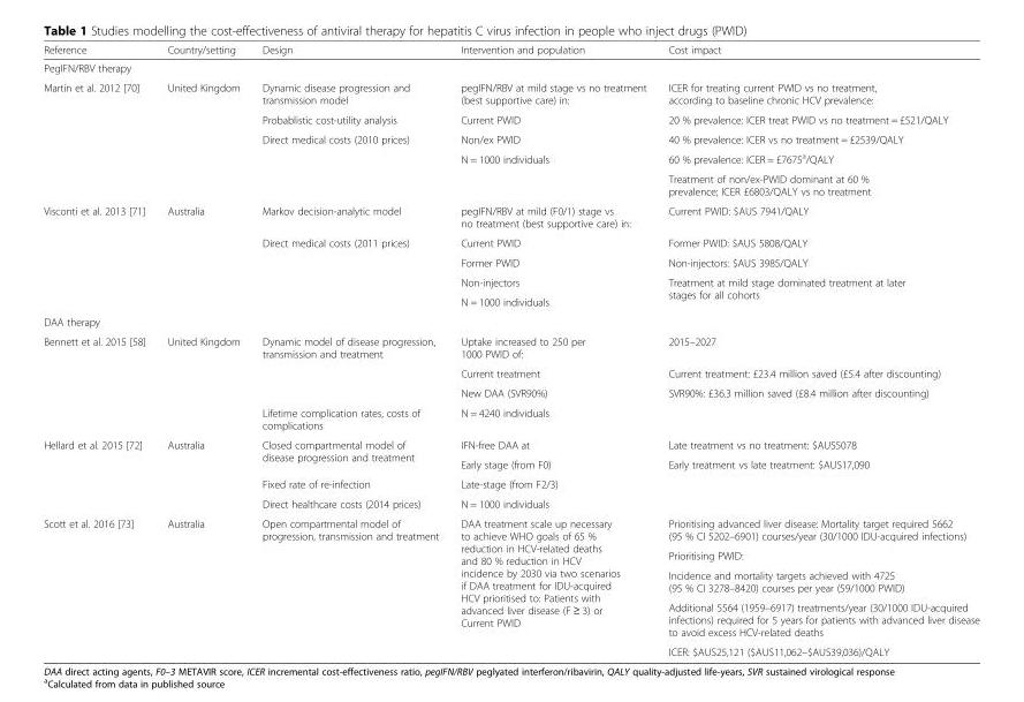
<table><thead><tr><td>Reference</td><td>Country/setting</td><td>Design</td><td>Intervention and population</td><td>Cost impact</td></tr></thead><tbody><tr><td colspan="5">PegIFN/RBV therapy</td></tr><tr><td rowspan="5">Martin et al. 2012 [70]</td><td rowspan="5">United Kingdom</td><td>Dynamic disease progression and transmission model</td><td>pegIFN/RBV at mild stage vs no treatment (best supportive care) in:</td><td>ICER for treating current PWID vs no treatment, according to baseline chronic HCV prevalence:</td></tr><tr><td>Probablistic cost-utility analysis</td><td>Current PWID</td><td>20 % prevalence: ICER treat PWID vs no treatment = £521/QALY</td></tr><tr><td rowspan="3">Direct medical costs (2010 prices)</td><td>Non/ex PWID</td><td>40 % prevalence: ICER vs no treatment = £2539/QALY</td></tr><tr><td rowspan="2">N = 1000 individuals</td><td>60 % prevalence: ICER = £7675<sup>a</sup>/QALY</td></tr><tr><td>Treatment of non/ex-PWID dominant at 60 % prevalence; ICER £6803/QALY vs no treatment</td></tr><tr><td rowspan="5">Visconti et al. 2013 [71]</td><td rowspan="5">Australia</td><td>Markov decision-analytic model</td><td>pegIFN/RBV at mild (F0/1) stage vs no treatment (best supportive care) in:</td><td>Current PWID: $AUS 7941/QALY</td></tr><tr><td rowspan="4">Direct medical costs (2011 prices)</td><td>Current PWID</td><td>Former PWID: $AUS 5808/QALY</td></tr><tr><td>Former PWID</td><td>Non-injectors: $AUS 3985/QALY</td></tr><tr><td>Non-injectors</td><td rowspan="2">Treatment at mild stage dominated treatment at later stages for all cohorts</td></tr><tr><td>N = 1000 individuals</td></tr><tr><td colspan="5">DAA therapy</td></tr><tr><td rowspan="4">Bennett et al. 2015 [58]</td><td rowspan="4">United Kingdom</td><td rowspan="3">Dynamic model of disease progression, transmission and treatment</td><td>Uptake increased to 250 per 1000 PWID of:</td><td>2015–2027</td></tr><tr><td>Current treatment</td><td>Current treatment: £23.4 million saved (£5.4 after discounting)</td></tr><tr><td>New DAA (SVR90%)</td><td rowspan="2">SVR90%: £36.3 million saved (£8.4 million after discounting)</td></tr><tr><td>Lifetime complication rates, costs of complications</td><td>N = 4240 individuals</td></tr><tr><td rowspan="4">Hellard et al. 2015 [72]</td><td rowspan="4">Australia</td><td rowspan="2">Closed compartmental model of disease progression and treatment</td><td>IFN-free DAA at</td><td>Late treatment vs no treatment: $AUS5078</td></tr><tr><td>Early stage (from F0)</td><td rowspan="3">Early treatment vs late treatment: $AUS17,090</td></tr><tr><td>Fixed rate of re-infection</td><td>Late-stage (from F2/3)</td></tr><tr><td>Direct healthcare costs (2014 prices)</td><td>N = 1000 individuals</td></tr><tr><td rowspan="5">Scott et al. 2016 [73]</td><td rowspan="5">Australia</td><td rowspan="5">Open compartmental model of progression, transmission and treatment</td><td rowspan="5">DAA treatment scale up necessary to achieve WHO goals of 65 % reduction in HCV-related deaths and 80 % reduction in HCV incidence by 2030 via two scenarios if DAA treatment for IDU-acquired HCV prioritised to: Patients with advanced liver disease (F ≥ 3) or Current PWID</td><td>Prioritising advanced liver disease: Mortality target required 5662 (95 % CI 5202–6901) courses/year (30/1000 IDU-acquired infections)</td></tr><tr><td>Prioritising PWID:</td></tr><tr><td>Incidence and mortality targets achieved with 4725 (95 % CI 3278–8420) courses per year (59/1000 PWID)</td></tr><tr><td>Additional 5564 (1959–6917) treatments/year (30/1000 IDU-acquired infections) required for 5 years for patients with advanced liver disease to avoid excess HCV-related deaths</td></tr><tr><td>ICER: $AUS25,121 ($AUS11,062–$AUS39,036)/QALY</td></tr></tbody></table>